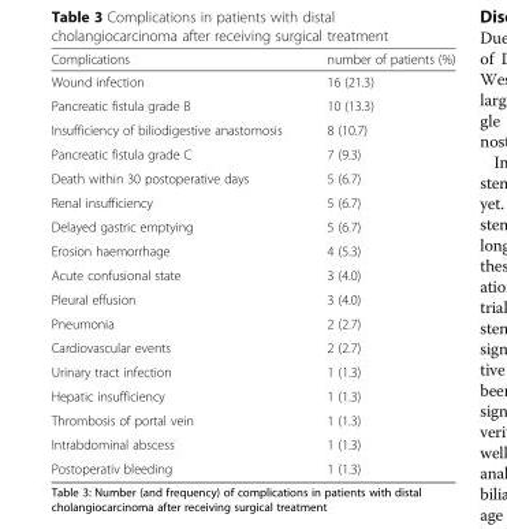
<table><thead><tr><td>Complications</td><td>number of patients (%)</td></tr></thead><tbody><tr><td>Wound infection</td><td>16 (21.3)</td></tr><tr><td>Pancreatic fistula grade B</td><td>10 (13.3)</td></tr><tr><td>Insufficiency of biliodigestive anastomosis</td><td>8 (10.7)</td></tr><tr><td>Pancreatic fistula grade C</td><td>7 (9.3)</td></tr><tr><td>Death within 30 postoperative days</td><td>5 (6.7)</td></tr><tr><td>Renal insufficiency</td><td>5 (6.7)</td></tr><tr><td>Delayed gastric emptying</td><td>5 (6.7)</td></tr><tr><td>Erosion haemorrhage</td><td>4 (5.3)</td></tr><tr><td>Acute confusional state</td><td>3 (4.0)</td></tr><tr><td>Pleural effusion</td><td>3 (4.0)</td></tr><tr><td>Pneumonia</td><td>2 (2.7)</td></tr><tr><td>Cardiovascular events</td><td>2 (2.7)</td></tr><tr><td>Urinary tract infection</td><td>1 (1.3)</td></tr><tr><td>Hepatic insufficiency</td><td>1 (1.3)</td></tr><tr><td>Thrombosis of portal vein</td><td>1 (1.3)</td></tr><tr><td>Intrabdominal abscess</td><td>1 (1.3)</td></tr><tr><td>Postoperativ bleeding</td><td>1 (1.3)</td></tr></tbody></table>